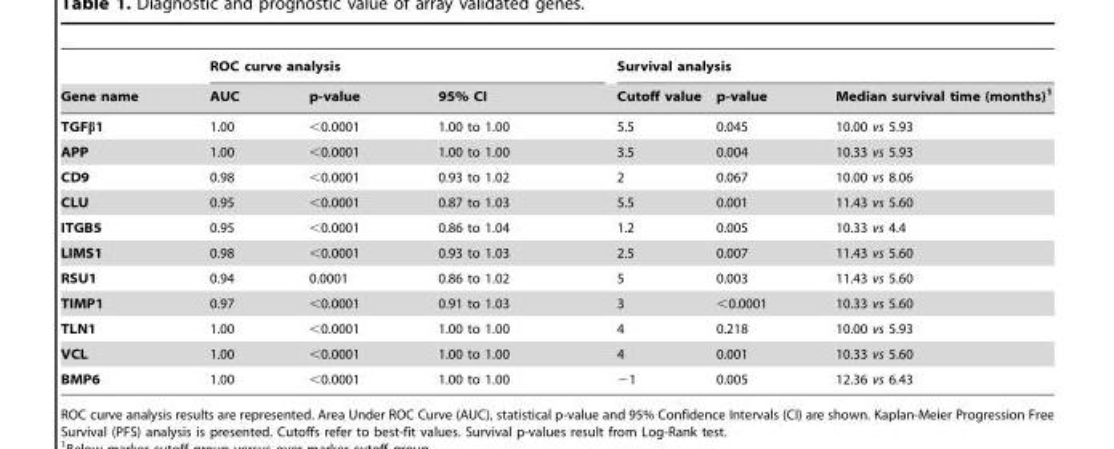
<table><thead><tr><td rowspan="2">Gene name</td><td colspan="3">ROC curve analysis</td><td colspan="3">Survival analysis</td></tr><tr><td>AUC</td><td>p-value</td><td>95% CI</td><td>Cutoff value</td><td>p-value</td><td>Median survival time (months)<sup>1</sup></td></tr></thead><tbody><tr><td>TGFβ1</td><td>1.00</td><td>&lt;0.0001</td><td>1.00 to 1.00</td><td>5.5</td><td>0.045</td><td>10.00 vs 5.93</td></tr><tr><td>APP</td><td>1.00</td><td>&lt;0.0001</td><td>1.00 to 1.00</td><td>3.5</td><td>0.004</td><td>10.33 vs 5.93</td></tr><tr><td>CD9</td><td>0.98</td><td>&lt;0.0001</td><td>0.93 to 1.02</td><td>2</td><td>0.067</td><td>10.00 vs 8.06</td></tr><tr><td>CLU</td><td>0.95</td><td>&lt;0.0001</td><td>0.87 to 1.03</td><td>5.5</td><td>0.001</td><td>11.43 vs 5.60</td></tr><tr><td>ITGB5</td><td>0.95</td><td>&lt;0.0001</td><td>0.86 to 1.04</td><td>1.2</td><td>0.005</td><td>10.33 vs 4.4</td></tr><tr><td>LIMS1</td><td>0.98</td><td>&lt;0.0001</td><td>0.93 to 1.03</td><td>2.5</td><td>0.007</td><td>11.43 vs 5.60</td></tr><tr><td>RSU1</td><td>0.94</td><td>0.0001</td><td>0.86 to 1.02</td><td>5</td><td>0.003</td><td>11.43 vs 5.60</td></tr><tr><td>TIMP1</td><td>0.97</td><td>&lt;0.0001</td><td>0.91 to 1.03</td><td>3</td><td>&lt;0.0001</td><td>10.33 vs 5.60</td></tr><tr><td>TLN1</td><td>1.00</td><td>&lt;0.0001</td><td>1.00 to 1.00</td><td>4</td><td>0.218</td><td>10.00 vs 5.93</td></tr><tr><td>VCL</td><td>1.00</td><td>&lt;0.0001</td><td>1.00 to 1.00</td><td>4</td><td>0.001</td><td>10.33 vs 5.60</td></tr><tr><td>BMP6</td><td>1.00</td><td>&lt;0.0001</td><td>1.00 to 1.00</td><td>−1</td><td>0.005</td><td>12.36 vs 6.43</td></tr></tbody></table>